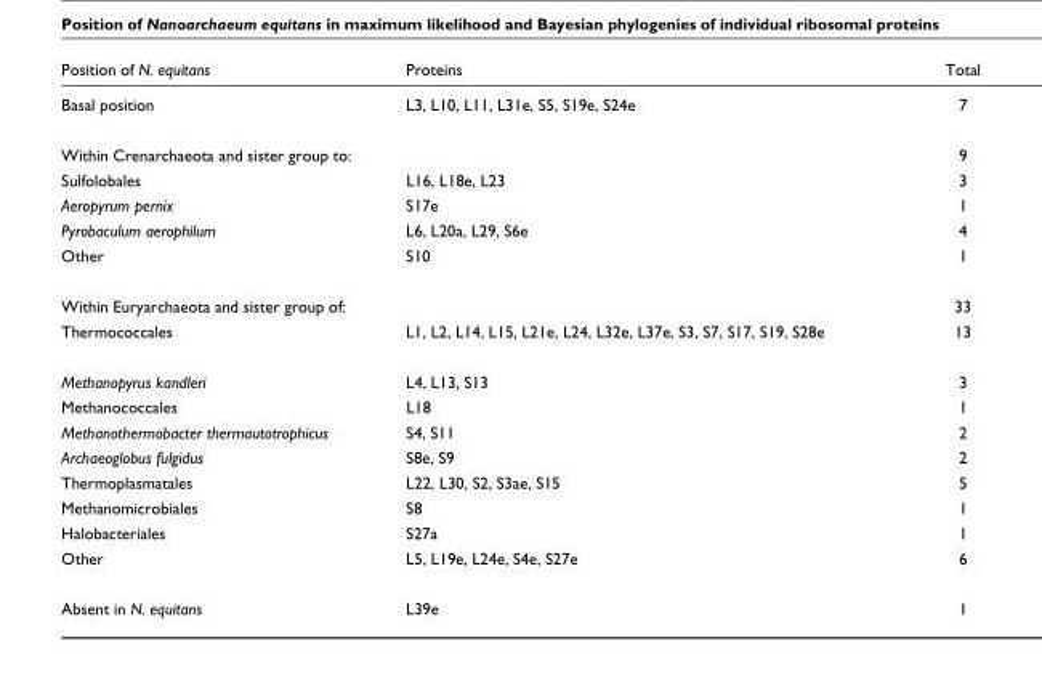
<table><thead><tr><td>Position of N. equitans</td><td>Proteins</td><td>Total</td></tr></thead><tbody><tr><td>Basal position</td><td>L3, L10, L11, L31e, S5, S19e, S24e</td><td>7</td></tr><tr><td>Within Crenarchaeota and sister group to:</td><td></td><td>9</td></tr><tr><td>Sulfolobales</td><td>L16, L18e, L23</td><td>3</td></tr><tr><td>Aeropyrum pernix</td><td>S17e</td><td>1</td></tr><tr><td>Pyrobaculum aerophilum</td><td>L6, L20a, L29, S6e</td><td>4</td></tr><tr><td>Other</td><td>S10</td><td>1</td></tr><tr><td>Within Euryarchaeota and sister group of:</td><td></td><td>33</td></tr><tr><td>Thermococcales</td><td>L1, L2, L14, L15, L21e, L24, L32e, L37e, S3, S7, S17, S19, S28e</td><td>13</td></tr><tr><td>Methanopyrus kandleri</td><td>L4, L13, S13</td><td>3</td></tr><tr><td>Methanococcales</td><td>L18</td><td>1</td></tr><tr><td>Methanothermobacter thermautotrophicus</td><td>S4, S11</td><td>2</td></tr><tr><td>Archaeoglobus fulgidus</td><td>S8e, S9</td><td>2</td></tr><tr><td>Thermoplasmatales</td><td>L22, L30, S2, S3ae, S15</td><td>5</td></tr><tr><td>Methanomicrobiales</td><td>S8</td><td>1</td></tr><tr><td>Halobacteriales</td><td>S27a</td><td>1</td></tr><tr><td>Other</td><td>L5, L19e, L24e, S4e, S27e</td><td>6</td></tr><tr><td>Absent in N. equitans</td><td>L39e</td><td>1</td></tr></tbody></table>